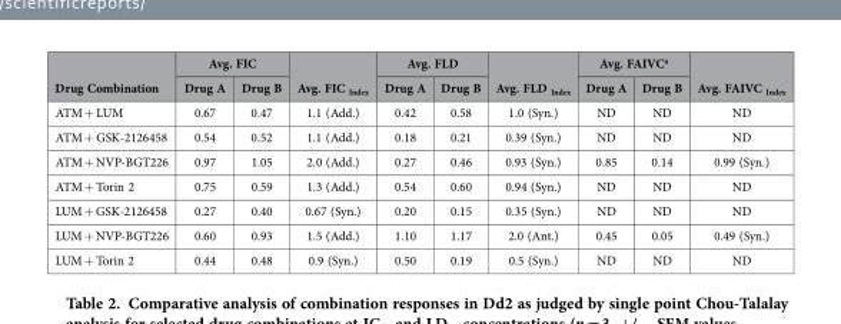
<table><thead><tr><td rowspan="2">Drug Combination</td><td colspan="2">Avg. FIC</td><td rowspan="2">Avg. FIC <sub>Index</sub></td><td colspan="2">Avg. FLD</td><td rowspan="2">Avg. FLD <sub>Index</sub></td><td colspan="2">Avg. FAIVC<sup>a</sup></td><td rowspan="2">Avg. FAIVC <sub>Index</sub></td></tr><tr><td>Drug A</td><td>Drug B</td><td>Drug A</td><td>Drug B</td><td>Drug A</td><td>Drug B</td></tr></thead><tbody><tr><td>ATM + LUM</td><td>0.67</td><td>0.47</td><td>1.1 (Add.)</td><td>0.42</td><td>0.58</td><td>1.0 (Syn.)</td><td>ND</td><td>ND</td><td>ND</td></tr><tr><td>ATM + GSK-2126458</td><td>0.54</td><td>0.52</td><td>1.1 (Add.)</td><td>0.18</td><td>0.21</td><td>0.39 (Syn.)</td><td>ND</td><td>ND</td><td>ND</td></tr><tr><td>ATM + NVP-BGT226</td><td>0.97</td><td>1.05</td><td>2.0 (Add.)</td><td>0.27</td><td>0.46</td><td>0.93 (Syn.)</td><td>0.85</td><td>0.14</td><td>0.99 (Syn.)</td></tr><tr><td>ATM + Torin 2</td><td>0.75</td><td>0.59</td><td>1.3 (Add.)</td><td>0.54</td><td>0.60</td><td>0.94 (Syn.)</td><td>ND</td><td>ND</td><td>ND</td></tr><tr><td>LUM + GSK-2126458</td><td>0.27</td><td>0.40</td><td>0.67 (Syn.)</td><td>0.20</td><td>0.15</td><td>0.35 (Syn.)</td><td>ND</td><td>ND</td><td>ND</td></tr><tr><td>LUM + NVP-BGT226</td><td>0.60</td><td>0.93</td><td>1.5 (Add.)</td><td>1.10</td><td>1.17</td><td>2.0 (Ant.)</td><td>0.45</td><td>0.05</td><td>0.49 (Syn.)</td></tr><tr><td>LUM + Torin 2</td><td>0.44</td><td>0.48</td><td>0.9 (Syn.)</td><td>0.50</td><td>0.19</td><td>0.5 (Syn.)</td><td>ND</td><td>ND</td><td>ND</td></tr></tbody></table>